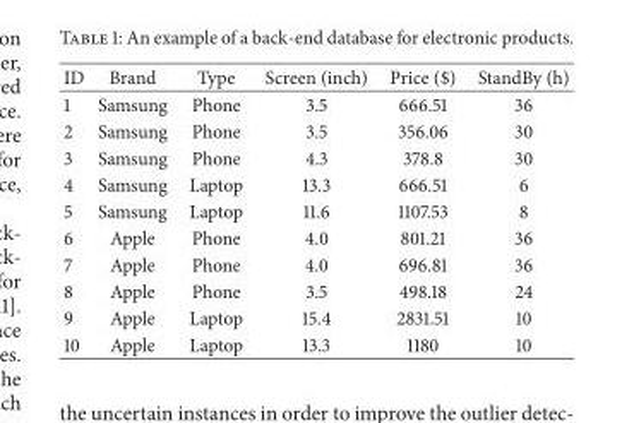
<table><thead><tr><td>ID</td><td>Brand</td><td>Type</td><td>Screen (inch)</td><td>Price ($)</td><td>StandBy (h)</td></tr></thead><tbody><tr><td>1</td><td>Samsung</td><td>Phone</td><td>3.5</td><td>666.51</td><td>36</td></tr><tr><td>2</td><td>Samsung</td><td>Phone</td><td>3.5</td><td>356.06</td><td>30</td></tr><tr><td>3</td><td>Samsung</td><td>Phone</td><td>4.3</td><td>378.8</td><td>30</td></tr><tr><td>4</td><td>Samsung</td><td>Laptop</td><td>13.3</td><td>666.51</td><td>6</td></tr><tr><td>5</td><td>Samsung</td><td>Laptop</td><td>11.6</td><td>1107.53</td><td>8</td></tr><tr><td>6</td><td>Apple</td><td>Phone</td><td>4.0</td><td>801.21</td><td>36</td></tr><tr><td>7</td><td>Apple</td><td>Phone</td><td>4.0</td><td>696.81</td><td>36</td></tr><tr><td>8</td><td>Apple</td><td>Phone</td><td>3.5</td><td>498.18</td><td>24</td></tr><tr><td>9</td><td>Apple</td><td>Laptop</td><td>15.4</td><td>2831.51</td><td>10</td></tr><tr><td>10</td><td>Apple</td><td>Laptop</td><td>13.3</td><td>1180</td><td>10</td></tr></tbody></table>